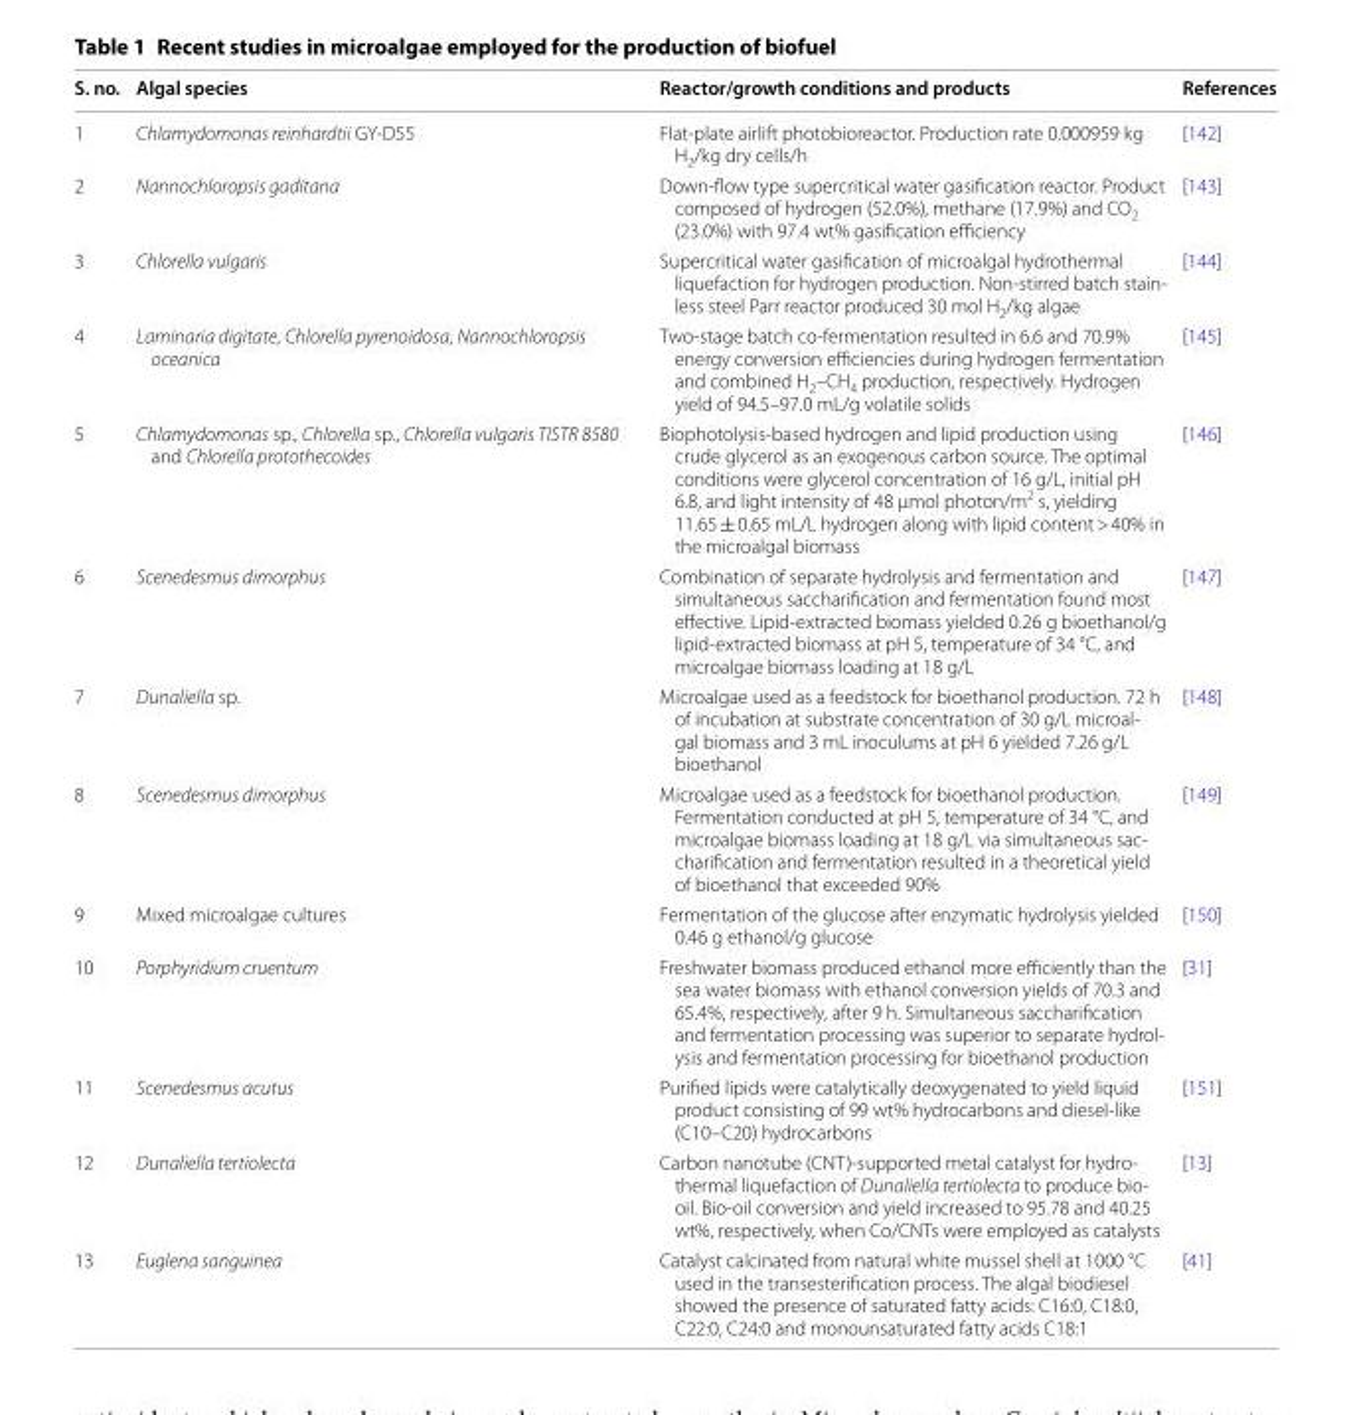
<table><thead><tr><td>S. no.</td><td>Algal species</td><td>Reactor/growth conditions and products</td><td>References</td></tr></thead><tbody><tr><td>1</td><td>Chlamydomonas reinhardtii GY-D55</td><td>Flat-plate airlift photobioreactor. Production rate 0.000959 kg H<sub>2</sub>/kg dry cells/h</td><td>[142]</td></tr><tr><td>2</td><td>Nannochloropsis gaditana</td><td>Down-flow type supercritical water gasification reactor. Product composed of hydrogen (52.0%), methane (17.9%) and CO<sub>2</sub> (23.0%) with 97.4 wt% gasification efficiency</td><td>[143]</td></tr><tr><td>3</td><td>Chlorella vulgaris</td><td>Supercritical water gasification of microalgal hydrothermal liquefaction for hydrogen production. Non-stirred batch stain- less steel Parr reactor produced 30 mol H2/kg algae</td><td>[144]</td></tr><tr><td>4</td><td>Laminaria digitate, Chlorella pyrenoidosa, Nannochloropsis oceanica</td><td>Two-stage batch co-fermentation resulted in 6.6 and 70.9% energy conversion efficiencies during hydrogen fermentation and combined H<sub>2</sub>–CH<sub>4</sub> production, respectively. Hydrogen yield of 94.5–97.0 mL/g volatile solids</td><td>[145]</td></tr><tr><td>5</td><td>Chlamydomonas sp., Chlorella sp., Chlorella vulgaris TISTR 8580 and Chlorella protothecoides</td><td>Biophotolysis-based hydrogen and lipid production using crude glycerol as an exogenous carbon source. The optimal conditions were glycerol concentration of 16 g/L, initial pH 6.8, and light intensity of 48 μmol photon/m<sup>2</sup> s, yielding 11.65 ± 0.65 mL/L hydrogen along with lipid content &gt; 40% in the microalgal biomass</td><td>[146]</td></tr><tr><td>6</td><td>Scenedesmus dimorphus</td><td>Combination of separate hydrolysis and fermentation and simultaneous saccharification and fermentation found most effective. Lipid-extracted biomass yielded 0.26 g bioethanol/g lipid-extracted biomass at pH 5, temperature of 34 °C, and microalgae biomass loading at 18 g/L</td><td>[147]</td></tr><tr><td>7</td><td>Dunaliella sp.</td><td>Microalgae used as a feedstock for bioethanol production. 72 h of incubation at substrate concentration of 30 g/L microal- gal biomass and 3 mL inoculums at pH 6 yielded 7.26 g/L bioethanol</td><td>[148]</td></tr><tr><td>8</td><td>Scenedesmus dimorphus</td><td>Microalgae used as a feedstock for bioethanol production. Fermentation conducted at pH 5, temperature of 34 °C, and microalgae biomass loading at 18 g/L via simultaneous sac- charification and fermentation resulted in a theoretical yield of bioethanol that exceeded 90%</td><td>[149]</td></tr><tr><td>9</td><td>Mixed microalgae cultures</td><td>Fermentation of the glucose after enzymatic hydrolysis yielded 0.46 g ethanol/g glucose</td><td>[150]</td></tr><tr><td>10</td><td>Porphyridium cruentum</td><td>Freshwater biomass produced ethanol more efficiently than the sea water biomass with ethanol conversion yields of 70.3 and 65.4%, respectively, after 9 h. Simultaneous saccharification and fermentation processing was superior to separate hydrol- ysis and fermentation processing for bioethanol production</td><td>[31]</td></tr><tr><td>11</td><td>Scenedesmus acutus</td><td>Purified lipids were catalytically deoxygenated to yield liquid product consisting of 99 wt% hydrocarbons and diesel-like (C10–C20) hydrocarbons</td><td>[151]</td></tr><tr><td>12</td><td>Dunaliella tertiolecta</td><td>Carbon nanotube (CNT)-supported metal catalyst for hydro- thermal liquefaction of Dunaliella tertiolecta to produce bio- oil. Bio-oil conversion and yield increased to 95.78 and 40.25 wt%, respectively, when Co/CNTs were employed as catalysts</td><td>[13]</td></tr><tr><td>13</td><td>Euglena sanguinea</td><td>Catalyst calcinated from natural white mussel shell at 1000 °C used in the transesterification process. The algal biodiesel showed the presence of saturated fatty acids: C16:0, C18:0, C22:0, C24:0 and monounsaturated fatty acids C18:1</td><td>[41]</td></tr></tbody></table>